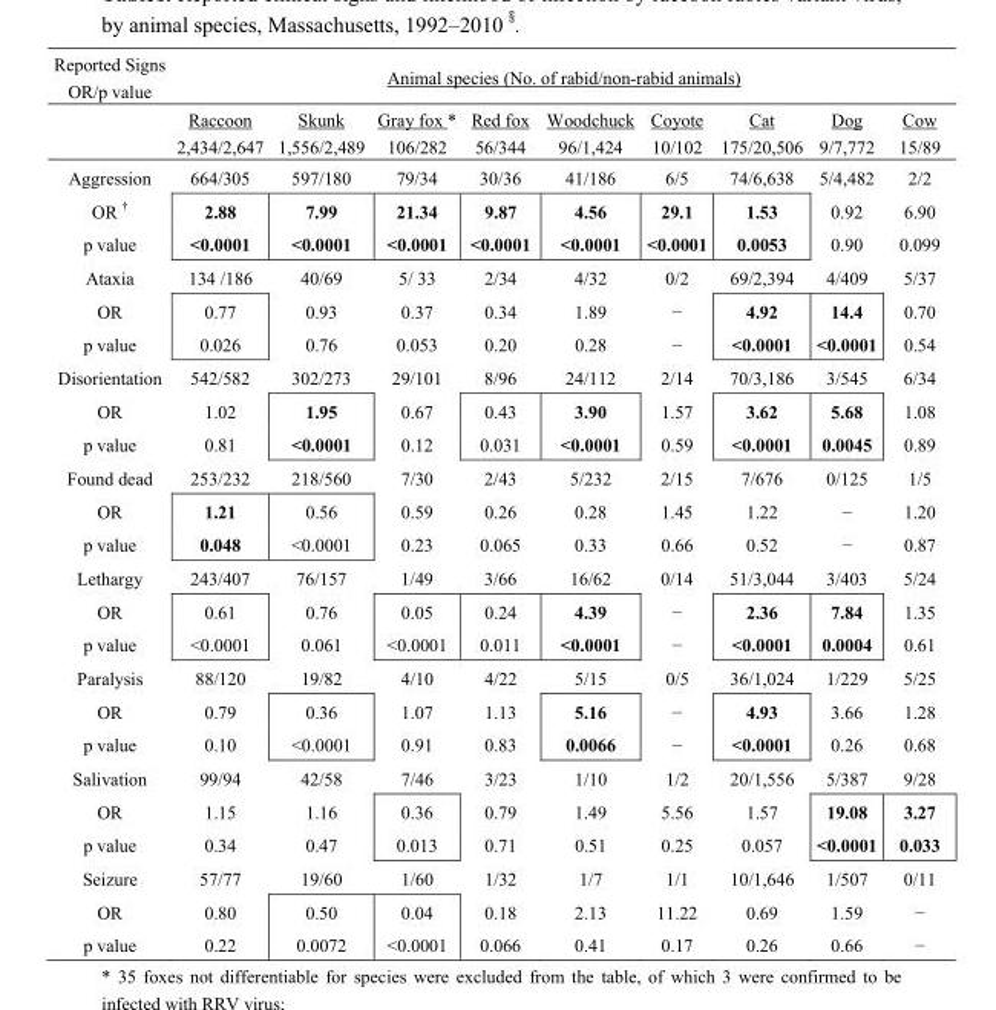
<table><thead><tr><td rowspan="2">Reported Signs OR/p value</td><td colspan="9">Animal species (No. of rabid/non-rabid animals)</td></tr><tr><td>Raccoon 2,434/2,647</td><td>Skunk 1,556/2,489</td><td>Gray fox * 106/282</td><td>Red fox 56/344</td><td>Woodchuck 96/1,424</td><td>Coyote 10/102</td><td>Cat 175/20,506</td><td>Dog 9/7,772</td><td>Cow 15/89</td></tr></thead><tbody><tr><td>Aggression</td><td>664/305</td><td>597/180</td><td>79/34</td><td>30/36</td><td>41/186</td><td>6/5</td><td>74/6,638</td><td>5/4,482</td><td>2/2</td></tr><tr><td>OR †</td><td>2.88</td><td>7.99</td><td>21.34</td><td>9.87</td><td>4.56</td><td>29.1</td><td>1.53</td><td>0.92</td><td>6.90</td></tr><tr><td>p value</td><td>&lt;0.0001</td><td>&lt;0.0001</td><td>&lt;0.0001</td><td>&lt;0.0001</td><td>&lt;0.0001</td><td>&lt;0.0001</td><td>0.0053</td><td>0.90</td><td>0.099</td></tr><tr><td>Ataxia</td><td>134 /186</td><td>40/69</td><td>5/ 33</td><td>2/34</td><td>4/32</td><td>0/2</td><td>69/2,394</td><td>4/409</td><td>5/37</td></tr><tr><td>OR</td><td>0.77</td><td>0.93</td><td>0.37</td><td>0.34</td><td>1.89</td><td>−</td><td>4.92</td><td>14.4</td><td>0.70</td></tr><tr><td>p value</td><td>0.026</td><td>0.76</td><td>0.053</td><td>0.20</td><td>0.28</td><td>−</td><td>&lt;0.0001</td><td>&lt;0.0001</td><td>0.54</td></tr><tr><td>Disorientation</td><td>542/582</td><td>302/273</td><td>29/101</td><td>8/96</td><td>24/112</td><td>2/14</td><td>70/3,186</td><td>3/545</td><td>6/34</td></tr><tr><td>OR</td><td>1.02</td><td>1.95</td><td>0.67</td><td>0.43</td><td>3.90</td><td>1.57</td><td>3.62</td><td>5.68</td><td>1.08</td></tr><tr><td>p value</td><td>0.81</td><td>&lt;0.0001</td><td>0.12</td><td>0.031</td><td>&lt;0.0001</td><td>0.59</td><td>&lt;0.0001</td><td>0.0045</td><td>0.89</td></tr><tr><td>Found dead</td><td>253/232</td><td>218/560</td><td>7/30</td><td>2/43</td><td>5/232</td><td>2/15</td><td>7/676</td><td>0/125</td><td>1/5</td></tr><tr><td>OR</td><td>1.21</td><td>0.56</td><td>0.59</td><td>0.26</td><td>0.28</td><td>1.45</td><td>1.22</td><td>−</td><td>1.20</td></tr><tr><td>p value</td><td>0.048</td><td>&lt;0.0001</td><td>0.23</td><td>0.065</td><td>0.33</td><td>0.66</td><td>0.52</td><td>−</td><td>0.87</td></tr><tr><td>Lethargy</td><td>243/407</td><td>76/157</td><td>1/49</td><td>3/66</td><td>16/62</td><td>0/14</td><td>51/3,044</td><td>3/403</td><td>5/24</td></tr><tr><td>OR</td><td>0.61</td><td>0.76</td><td>0.05</td><td>0.24</td><td>4.39</td><td>−</td><td>2.36</td><td>7.84</td><td>1.35</td></tr><tr><td>p value</td><td>&lt;0.0001</td><td>0.061</td><td>&lt;0.0001</td><td>0.011</td><td>&lt;0.0001</td><td>−</td><td>&lt;0.0001</td><td>0.0004</td><td>0.61</td></tr><tr><td>Paralysis</td><td>88/120</td><td>19/82</td><td>4/10</td><td>4/22</td><td>5/15</td><td>0/5</td><td>36/1,024</td><td>1/229</td><td>5/25</td></tr><tr><td>OR</td><td>0.79</td><td>0.36</td><td>1.07</td><td>1.13</td><td>5.16</td><td>−</td><td>4.93</td><td>3.66</td><td>1.28</td></tr><tr><td>p value</td><td>0.10</td><td>&lt;0.0001</td><td>0.91</td><td>0.83</td><td>0.0066</td><td>−</td><td>&lt;0.0001</td><td>0.26</td><td>0.68</td></tr><tr><td>Salivation</td><td>99/94</td><td>42/58</td><td>7/46</td><td>3/23</td><td>1/10</td><td>1/2</td><td>20/1,556</td><td>5/387</td><td>9/28</td></tr><tr><td>OR</td><td>1.15</td><td>1.16</td><td>0.36</td><td>0.79</td><td>1.49</td><td>5.56</td><td>1.57</td><td>19.08</td><td>3.27</td></tr><tr><td>p value</td><td>0.34</td><td>0.47</td><td>0.013</td><td>0.71</td><td>0.51</td><td>0.25</td><td>0.057</td><td>&lt;0.0001</td><td>0.033</td></tr><tr><td>Seizure</td><td>57/77</td><td>19/60</td><td>1/60</td><td>1/32</td><td>1/7</td><td>1/1</td><td>10/1,646</td><td>1/507</td><td>0/11</td></tr><tr><td>OR</td><td>0.80</td><td>0.50</td><td>0.04</td><td>0.18</td><td>2.13</td><td>11.22</td><td>0.69</td><td>1.59</td><td>−</td></tr><tr><td>p value</td><td>0.22</td><td>0.0072</td><td>&lt;0.0001</td><td>0.066</td><td>0.41</td><td>0.17</td><td>0.26</td><td>0.66</td><td>−</td></tr></tbody></table>